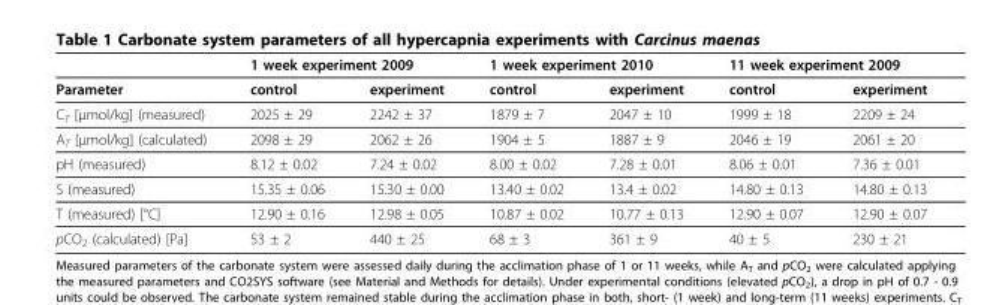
<table><thead><tr><td rowspan="2">Parameter</td><td colspan="2">1 week experiment 2009</td><td colspan="2">1 week experiment 2010</td><td colspan="2">11 week experiment 2009</td></tr><tr><td>control</td><td>experiment</td><td>control</td><td>experiment</td><td>control</td><td>experiment</td></tr></thead><tbody><tr><td>C<sub>T</sub> [μmol/kg] (measured)</td><td>2025 ± 29</td><td>2242 ± 37</td><td>1879 ± 7</td><td>2047 ± 10</td><td>1999 ± 18</td><td>2209 ± 24</td></tr><tr><td>A<sub>T</sub> [μmol/kg] (calculated)</td><td>2098 ± 29</td><td>2062 ± 26</td><td>1904 ± 5</td><td>1887 ± 9</td><td>2046 ± 19</td><td>2061 ± 20</td></tr><tr><td>pH (measured)</td><td>8.12 ± 0.02</td><td>7.24 ± 0.02</td><td>8.00 ± 0.02</td><td>7.28 ± 0.01</td><td>8.06 ± 0.01</td><td>7.36 ± 0.01</td></tr><tr><td>S (measured)</td><td>15.35 ± 0.06</td><td>15.30 ± 0.00</td><td>13.40 ± 0.02</td><td>13.4 ± 0.02</td><td>14.80 ± 0.13</td><td>14.80 ± 0.13</td></tr><tr><td>T (measured) [°C]</td><td>12.90 ± 0.16</td><td>12.98 ± 0.05</td><td>10.87 ± 0.02</td><td>10.77 ± 0.13</td><td>12.90 ± 0.07</td><td>12.90 ± 0.07</td></tr><tr><td>pCO<sub>2</sub> (calculated) [Pa]</td><td>53 ± 2</td><td>440 ± 25</td><td>68 ± 3</td><td>361 ± 9</td><td>40 ± 5</td><td>230 ± 21</td></tr></tbody></table>